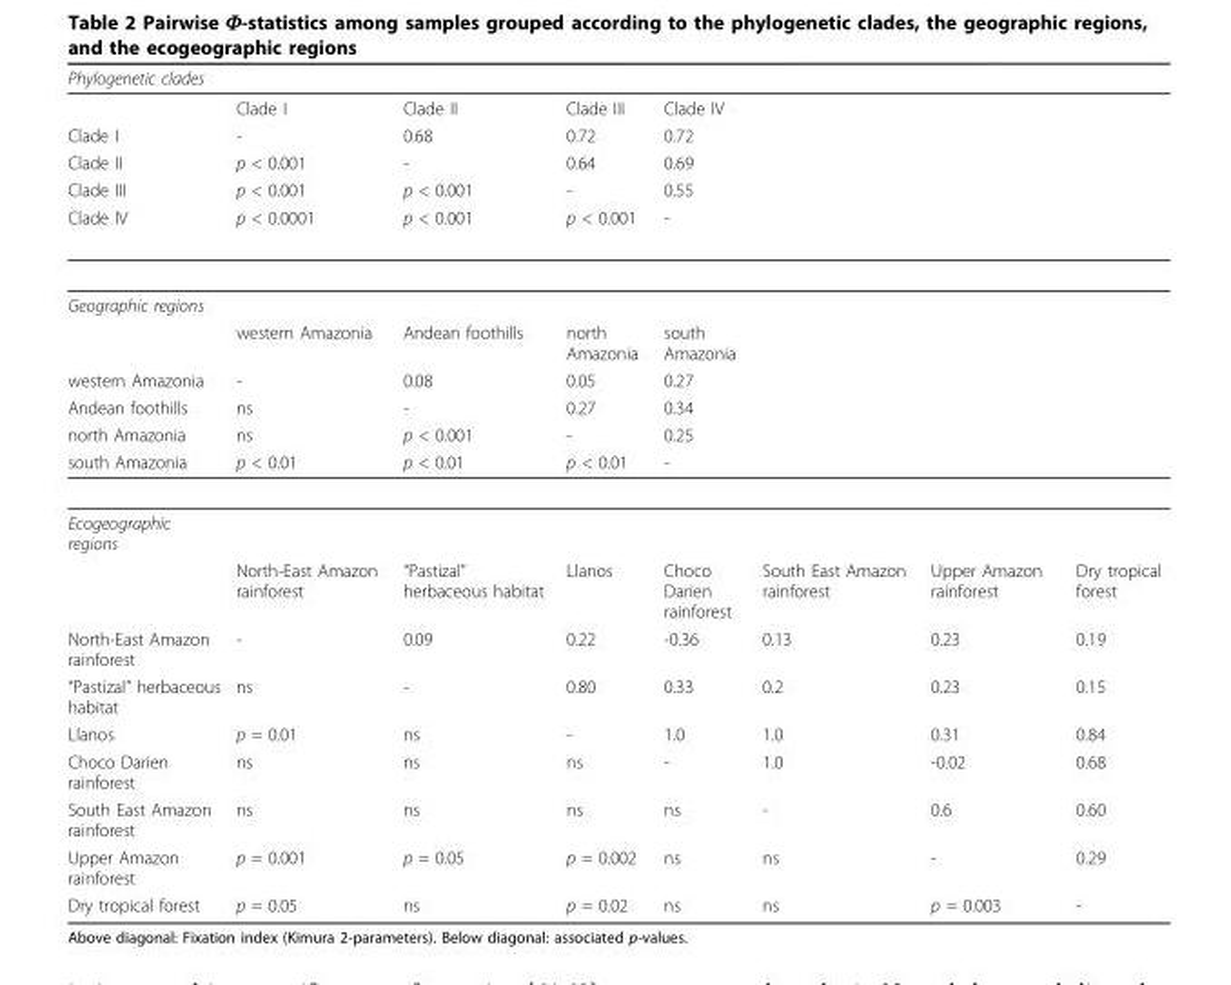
<table><thead><tr><td>Phylogenetic clades</td><td></td><td></td><td></td><td></td><td></td><td></td><td></td></tr></thead><tbody><tr><td></td><td>Clade I</td><td>Clade II</td><td>Clade III</td><td>Clade IV</td><td></td><td></td><td></td></tr><tr><td>Clade I</td><td>-</td><td>0.68</td><td>0.72</td><td>0.72</td><td></td><td></td><td></td></tr><tr><td>Clade II</td><td>p &lt; 0.001</td><td>-</td><td>0.64</td><td>0.69</td><td></td><td></td><td></td></tr><tr><td>Clade III</td><td>p &lt; 0.001</td><td>p &lt; 0.001</td><td>-</td><td>0.55</td><td></td><td></td><td></td></tr><tr><td>Clade IV</td><td>p &lt; 0.0001</td><td>p &lt; 0.001</td><td>p &lt; 0.001</td><td>-</td><td></td><td></td><td></td></tr><tr><td colspan="8">Geographic regions</td></tr><tr><td></td><td>western Amazonia</td><td>Andean foothills</td><td>north Amazonia</td><td>south Amazonia</td><td></td><td></td><td></td></tr><tr><td>western Amazonia</td><td>-</td><td>0.08</td><td>0.05</td><td>0.27</td><td></td><td></td><td></td></tr><tr><td>Andean foothills</td><td>ns</td><td>-</td><td>0.27</td><td>0.34</td><td></td><td></td><td></td></tr><tr><td>north Amazonia</td><td>ns</td><td>p &lt; 0.001</td><td>-</td><td>0.25</td><td></td><td></td><td></td></tr><tr><td>south Amazonia</td><td>p &lt; 0.01</td><td>p &lt; 0.01</td><td>p &lt; 0.01</td><td>-</td><td></td><td></td><td></td></tr><tr><td colspan="8">Ecogeographic regions</td></tr><tr><td></td><td>North-East Amazon rainforest</td><td>“Pastizal” herbaceous habitat</td><td>Llanos</td><td>Choco Darien rainforest</td><td>South East Amazon rainforest</td><td>Upper Amazon rainforest</td><td>Dry tropical forest</td></tr><tr><td>North-East Amazon rainforest</td><td>-</td><td>0.09</td><td>0.22</td><td>-0.36</td><td>0.13</td><td>0.23</td><td>0.19</td></tr><tr><td>“Pastizal” herbaceous habitat</td><td>ns</td><td>-</td><td>0.80</td><td>0.33</td><td>0.2</td><td>0.23</td><td>0.15</td></tr><tr><td>Llanos</td><td>p = 0.01</td><td>ns</td><td>-</td><td>1.0</td><td>1.0</td><td>0.31</td><td>0.84</td></tr><tr><td>Choco Darien rainforest</td><td>ns</td><td>ns</td><td>ns</td><td>-</td><td>1.0</td><td>-0.02</td><td>0.68</td></tr><tr><td>South East Amazon rainforest</td><td>ns</td><td>ns</td><td>ns</td><td>ns</td><td>-</td><td>0.6</td><td>0.60</td></tr><tr><td>Upper Amazon rainforest</td><td>p = 0.001</td><td>p = 0.05</td><td>p = 0.002</td><td>ns</td><td>ns</td><td>-</td><td>0.29</td></tr><tr><td>Dry tropical forest</td><td>p = 0.05</td><td>ns</td><td>p = 0.02</td><td>ns</td><td>ns</td><td>p = 0.003</td><td>-</td></tr></tbody></table>